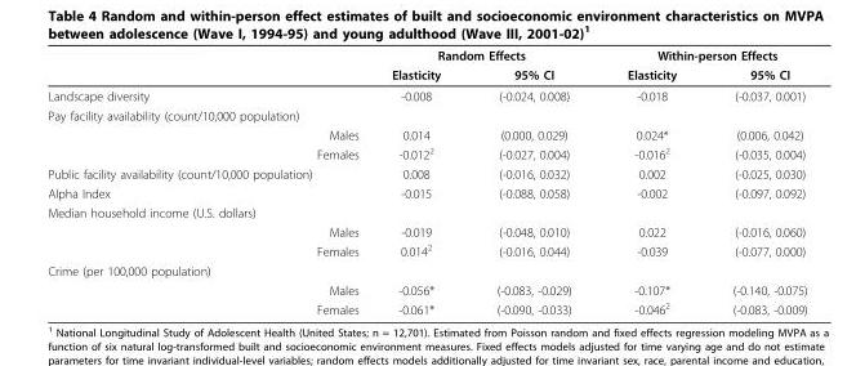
<table><thead><tr><td rowspan="2"></td><td colspan="2">Random Effects</td><td colspan="2">Within-person Effects</td></tr><tr><td>Elasticity</td><td>95% CI</td><td>Elasticity</td><td>95% CI</td></tr></thead><tbody><tr><td>Landscape diversity</td><td>-0.008</td><td>(-0.024, 0.008)</td><td>-0.018</td><td>(-0.037, 0.001)</td></tr><tr><td colspan="5">Pay facility availability (count/10,000 population)</td></tr><tr><td>Males</td><td>0.014</td><td>(0.000, 0.029)</td><td>0.024*</td><td>(0.006, 0.042)</td></tr><tr><td>Females</td><td>-0.012<sup>2</sup></td><td>(-0.027, 0.004)</td><td>-0.016<sup>2</sup></td><td>(-0.035, 0.004)</td></tr><tr><td>Public facility availability (count/10,000 population)</td><td>0.008</td><td>(-0.016, 0.032)</td><td>0.002</td><td>(-0.025, 0.030)</td></tr><tr><td>Alpha Index</td><td>-0.015</td><td>(-0.088, 0.058)</td><td>-0.002</td><td>(-0.097, 0.092)</td></tr><tr><td colspan="5">Median household income (U.S. dollars)</td></tr><tr><td>Males</td><td>-0.019</td><td>(-0.048, 0.010)</td><td>0.022</td><td>(-0.016, 0.060)</td></tr><tr><td>Females</td><td>0.014<sup>2</sup></td><td>(-0.016, 0.044)</td><td>-0.039</td><td>(-0.077, 0.000)</td></tr><tr><td colspan="5">Crime (per 100,000 population)</td></tr><tr><td>Males</td><td>-0.056*</td><td>(-0.083, -0.029)</td><td>-0.107*</td><td>(-0.140, -0.075)</td></tr><tr><td>Females</td><td>-0.061*</td><td>(-0.090, -0.033)</td><td>-0.046<sup>2</sup></td><td>(-0.083, -0.009)</td></tr></tbody></table>